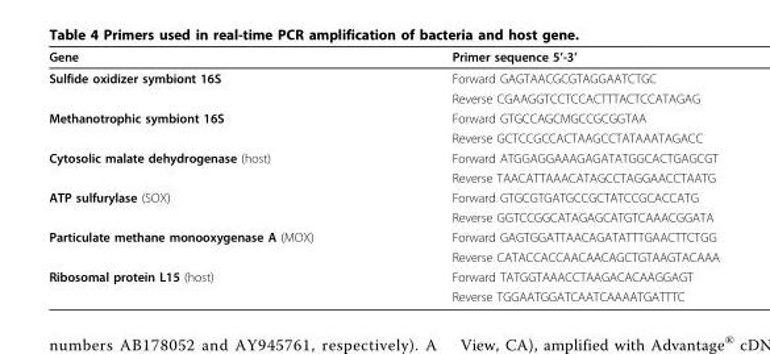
<table><thead><tr><td>Gene</td><td>Primer sequence 5’-3’</td></tr></thead><tbody><tr><td rowspan="2">Sulfide oxidizer symbiont 16S</td><td>Forward GAGTAACGCGTAGGAATCTGC</td></tr><tr><td>Reverse CGAAGGTCCTCCACTTTACTCCATAGAG</td></tr><tr><td rowspan="2">Methanotrophic symbiont 16S</td><td>Forward GTGCCAGCMGCCGCGGTAA</td></tr><tr><td>Reverse GCTCCGCCACTAAGCCTATAAATAGACC</td></tr><tr><td rowspan="2">Cytosolic malate dehydrogenase (host)</td><td>Forward ATGGAGGAAAGAGATATGGCACTGAGCGT</td></tr><tr><td>Reverse TAACATTAAACATAGCCTAGGAACCTAATG</td></tr><tr><td rowspan="2">ATP sulfurylase (SOX)</td><td>Forward GTGCGTGATGCCGCTATCCGCACCATG</td></tr><tr><td>Reverse GGTCCGGCATAGAGCATGTCAAACGGATA</td></tr><tr><td rowspan="2">Particulate methane monooxygenase A (MOX)</td><td>Forward GAGTGGATTAACAGATATTTGAACTTCTGG</td></tr><tr><td>Reverse CATACCACCAACAACAGCTGTAAGTACAAA</td></tr><tr><td rowspan="2">Ribosomal protein L15 (host)</td><td>Forward TATGGTAAACCTAAGACACAAGGAGT</td></tr><tr><td>Reverse TGGAATGGATCAATCAAAATGATTTC</td></tr></tbody></table>